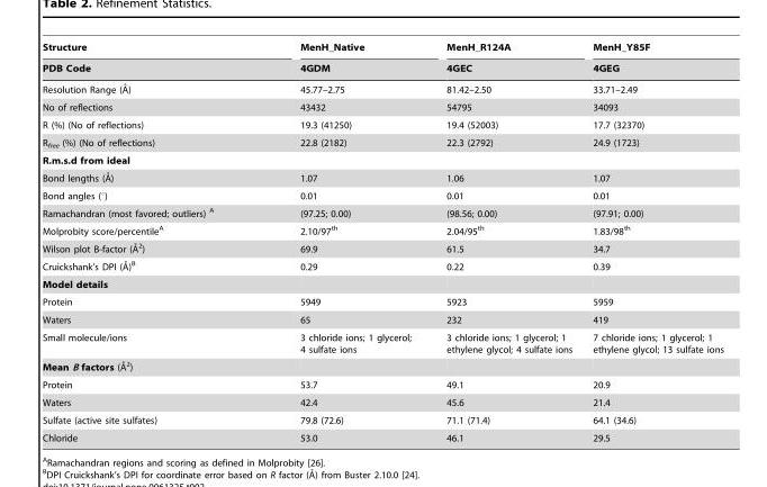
<table><thead><tr><td rowspan="2">Structure PDB Code</td><td rowspan="2">MenH_Native 4GDM</td><td rowspan="2">MenH_R124A 4GEC</td><td rowspan="2">MenH_Y85F 4GEG</td></tr><tr></tr></thead><tbody><tr><td>Resolution Range (A˚)</td><td>45.77–2.75</td><td>81.42–2.50</td><td>33.71–2.49</td></tr><tr><td>No of reflections</td><td>43432</td><td>54795</td><td>34093</td></tr><tr><td>R (%) (No of reflections)</td><td>19.3 (41250)</td><td>19.4 (52003)</td><td>17.7 (32370)</td></tr><tr><td>R<sub>free</sub> (%) (No of reflections)</td><td>22.8 (2182)</td><td>22.3 (2792)</td><td>24.9 (1723)</td></tr><tr><td colspan="4">R.m.s.d from ideal</td></tr><tr><td>Bond lengths (A˚)</td><td>1.07</td><td>1.06</td><td>1.07</td></tr><tr><td>Bond angles (°)</td><td>0.01</td><td>0.01</td><td>0.01</td></tr><tr><td>Ramachandran (most favored; outliers) A</td><td>(97.25; 0.00)</td><td>(98.56; 0.00)</td><td>(97.91; 0.00)</td></tr><tr><td>Molprobity score/percentile<sup>A</sup></td><td>2.10/97<sup>th</sup></td><td>2.04/95<sup>th</sup></td><td>1.83/98<sup>th</sup></td></tr><tr><td>Wilson plot B-factor (A˚2)</td><td>69.9</td><td>61.5</td><td>34.7</td></tr><tr><td>Cruickshank’s DPI (A˚)B</td><td>0.29</td><td>0.22</td><td>0.39</td></tr><tr><td colspan="4">Model details</td></tr><tr><td>Protein</td><td>5949</td><td>5923</td><td>5959</td></tr><tr><td>Waters</td><td>65</td><td>232</td><td>419</td></tr><tr><td>Small molecule/ions</td><td>3 chloride ions; 1 glycerol; 4 sulfate ions</td><td>3 chloride ions; 1 glycerol; 1 ethylene glycol; 4 sulfate ions</td><td>7 chloride ions; 1 glycerol; 1 ethylene glycol; 13 sulfate ions</td></tr><tr><td colspan="4">Mean B factors (A˚2)</td></tr><tr><td>Protein</td><td>53.7</td><td>49.1</td><td>20.9</td></tr><tr><td>Waters</td><td>42.4</td><td>45.6</td><td>21.4</td></tr><tr><td>Sulfate (active site sulfates)</td><td>79.8 (72.6)</td><td>71.1 (71.4)</td><td>64.1 (34.6)</td></tr><tr><td>Chloride</td><td>53.0</td><td>46.1</td><td>29.5</td></tr></tbody></table>